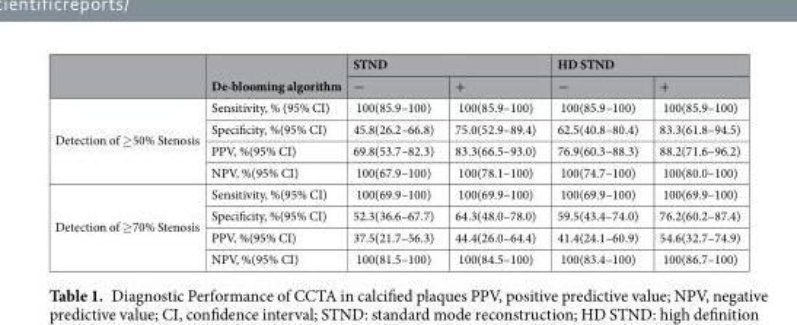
<table><thead><tr><td rowspan="2"></td><td rowspan="2">De-blooming algorithm</td><td colspan="2">STND</td><td colspan="2">HD STND</td></tr><tr><td>−</td><td>+</td><td>−</td><td>+</td></tr></thead><tbody><tr><td rowspan="4">Detection of ≥50% Stenosis</td><td>Sensitivity, % (95% CI)</td><td>100(85.9–100)</td><td>100(85.9–100)</td><td>100(85.9–100)</td><td>100(85.9–100)</td></tr><tr><td>Specificity, %(95% CI)</td><td>45.8(26.2–66.8)</td><td>75.0(52.9–89.4)</td><td>62.5(40.8–80.4)</td><td>83.3(61.8–94.5)</td></tr><tr><td>PPV, %(95% CI)</td><td>69.8(53.7–82.3)</td><td>83.3(66.5–93.0)</td><td>76.9(60.3–88.3)</td><td>88.2(71.6–96.2)</td></tr><tr><td>NPV, %(95% CI)</td><td>100(67.9–100)</td><td>100(78.1–100)</td><td>100(74.7–100)</td><td>100(80.0–100)</td></tr><tr><td rowspan="4">Detection of ≥70% Stenosis</td><td>Sensitivity, %(95% CI)</td><td>100(69.9–100)</td><td>100(69.9–100)</td><td>100(69.9–100)</td><td>100(69.9–100)</td></tr><tr><td>Specificity, %(95% CI)</td><td>52.3(36.6–67.7)</td><td>64.3(48.0–78.0)</td><td>59.5(43.4–74.0)</td><td>76.2(60.2–87.4)</td></tr><tr><td>PPV, %(95% CI)</td><td>37.5(21.7–56.3)</td><td>44.4(26.0–64.4)</td><td>41.4(24.1–60.9)</td><td>54.6(32.7–74.9)</td></tr><tr><td>NPV, %(95% CI)</td><td>100(81.5–100)</td><td>100(84.5–100)</td><td>100(83.4–100)</td><td>100(86.7–100)</td></tr></tbody></table>